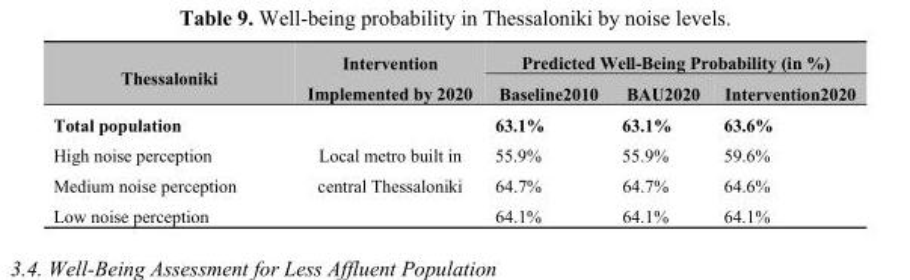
<table><thead><tr><td rowspan="2">Thessaloniki</td><td rowspan="2">Intervention Implemented by 2020</td><td colspan="3">Predicted Well-Being Probability (in %)</td></tr><tr><td>Baseline2010</td><td>BAU2020</td><td>Intervention2020</td></tr></thead><tbody><tr><td>Total population</td><td rowspan="4">Local metro built in central Thessaloniki</td><td>63.1%</td><td>63.1%</td><td>63.6%</td></tr><tr><td>High noise perception</td><td>55.9%</td><td>55.9%</td><td>59.6%</td></tr><tr><td>Medium noise perception</td><td>64.7%</td><td>64.7%</td><td>64.6%</td></tr><tr><td>Low noise perception</td><td>64.1%</td><td>64.1%</td><td>64.1%</td></tr></tbody></table>